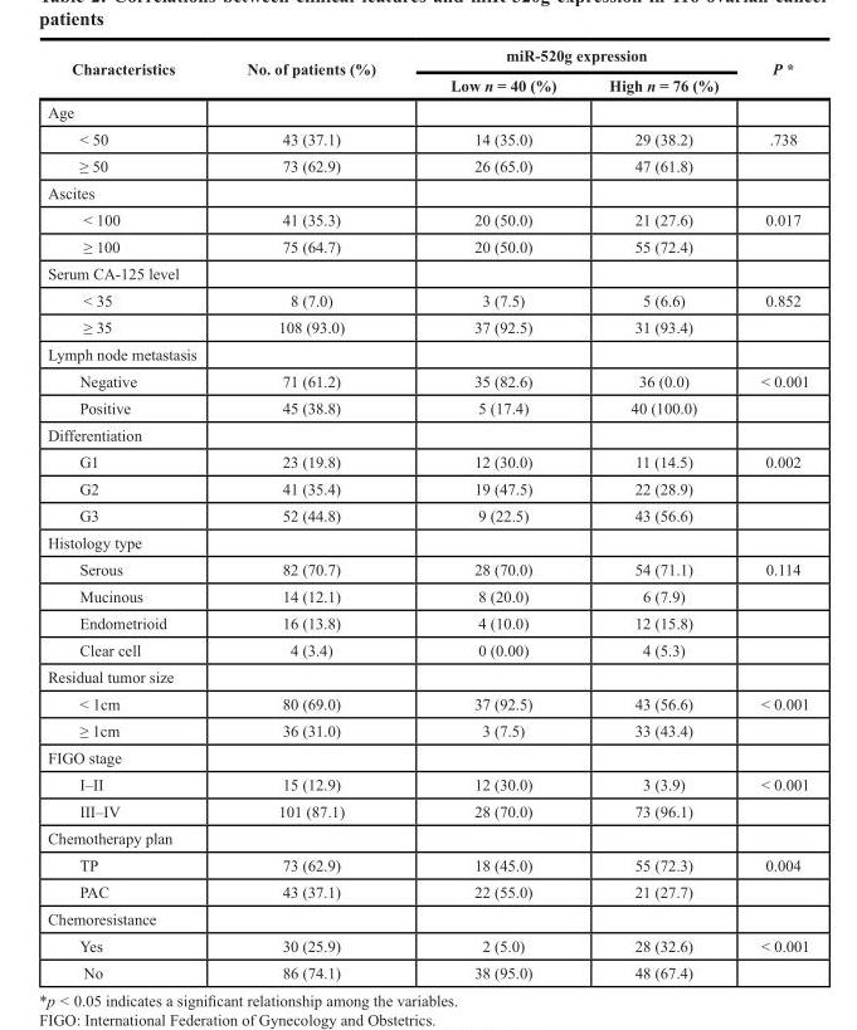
<table><thead><tr><td rowspan="2">Characteristics</td><td rowspan="2">No. of patients (%)</td><td colspan="2">miR-520g expression</td><td rowspan="2">P *</td></tr><tr><td>Low n = 40 (%)</td><td>High n = 76 (%)</td></tr></thead><tbody><tr><td colspan="5">Age</td></tr><tr><td>&lt; 50</td><td>43 (37.1)</td><td>14 (35.0)</td><td>29 (38.2)</td><td>.738</td></tr><tr><td>≥ 50</td><td>73 (62.9)</td><td>26 (65.0)</td><td>47 (61.8)</td><td></td></tr><tr><td colspan="5">Ascites</td></tr><tr><td>&lt; 100</td><td>41 (35.3)</td><td>20 (50.0)</td><td>21 (27.6)</td><td>0.017</td></tr><tr><td>≥ 100</td><td>75 (64.7)</td><td>20 (50.0)</td><td>55 (72.4)</td><td></td></tr><tr><td colspan="5">Serum CA-125 level</td></tr><tr><td>&lt; 35</td><td>8 (7.0)</td><td>3 (7.5)</td><td>5 (6.6)</td><td>0.852</td></tr><tr><td>≥ 35</td><td>108 (93.0)</td><td>37 (92.5)</td><td>31 (93.4)</td><td></td></tr><tr><td colspan="5">Lymph node metastasis</td></tr><tr><td>Negative</td><td>71 (61.2)</td><td>35 (82.6)</td><td>36 (0.0)</td><td>&lt; 0.001</td></tr><tr><td>Positive</td><td>45 (38.8)</td><td>5 (17.4)</td><td>40 (100.0)</td><td></td></tr><tr><td colspan="5">Differentiation</td></tr><tr><td>G1</td><td>23 (19.8)</td><td>12 (30.0)</td><td>11 (14.5)</td><td>0.002</td></tr><tr><td>G2</td><td>41 (35.4)</td><td>19 (47.5)</td><td>22 (28.9)</td><td></td></tr><tr><td>G3</td><td>52 (44.8)</td><td>9 (22.5)</td><td>43 (56.6)</td><td></td></tr><tr><td colspan="5">Histology type</td></tr><tr><td>Serous</td><td>82 (70.7)</td><td>28 (70.0)</td><td>54 (71.1)</td><td>0.114</td></tr><tr><td>Mucinous</td><td>14 (12.1)</td><td>8 (20.0)</td><td>6 (7.9)</td><td></td></tr><tr><td>Endometrioid</td><td>16 (13.8)</td><td>4 (10.0)</td><td>12 (15.8)</td><td></td></tr><tr><td>Clear cell</td><td>4 (3.4)</td><td>0 (0.00)</td><td>4 (5.3)</td><td></td></tr><tr><td colspan="5">Residual tumor size</td></tr><tr><td>&lt; 1cm</td><td>80 (69.0)</td><td>37 (92.5)</td><td>43 (56.6)</td><td>&lt; 0.001</td></tr><tr><td>≥ 1cm</td><td>36 (31.0)</td><td>3 (7.5)</td><td>33 (43.4)</td><td></td></tr><tr><td colspan="5">FIGO stage</td></tr><tr><td>I–II</td><td>15 (12.9)</td><td>12 (30.0)</td><td>3 (3.9)</td><td>&lt; 0.001</td></tr><tr><td>III–IV</td><td>101 (87.1)</td><td>28 (70.0)</td><td>73 (96.1)</td><td></td></tr><tr><td colspan="5">Chemotherapy plan</td></tr><tr><td>TP</td><td>73 (62.9)</td><td>18 (45.0)</td><td>55 (72.3)</td><td>0.004</td></tr><tr><td>PAC</td><td>43 (37.1)</td><td>22 (55.0)</td><td>21 (27.7)</td><td></td></tr><tr><td colspan="5">Chemoresistance</td></tr><tr><td>Yes</td><td>30 (25.9)</td><td>2 (5.0)</td><td>28 (32.6)</td><td>&lt; 0.001</td></tr><tr><td>No</td><td>86 (74.1)</td><td>38 (95.0)</td><td>48 (67.4)</td><td></td></tr></tbody></table>